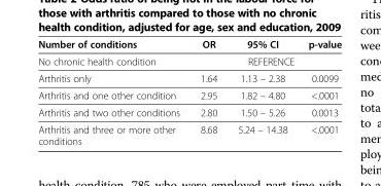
<table><thead><tr><td>Number of conditions</td><td>OR</td><td>95% CI</td><td>p-value</td></tr></thead><tbody><tr><td>No chronic health condition</td><td colspan="3">REFERENCE</td></tr><tr><td>Arthritis only</td><td>1.64</td><td>1.13 – 2.38</td><td>0.0099</td></tr><tr><td>Arthritis and one other condition</td><td>2.95</td><td>1.82 – 4.80</td><td>&lt;.0001</td></tr><tr><td>Arthritis and two other conditions</td><td>2.80</td><td>1.50 – 5.26</td><td>0.0013</td></tr><tr><td>Arthritis and three or more other conditions</td><td>8.68</td><td>5.24 – 14.38</td><td>&lt;.0001</td></tr></tbody></table>